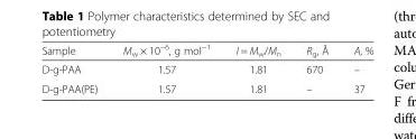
<table><thead><tr><td>Sample</td><td>M<sub>w</sub> × 10<sup>−6</sup>, g mol<sup>−1</sup></td><td>I = M<sub>w</sub>/M<sub>n</sub></td><td>R<sub>g</sub>, Å</td><td>A, %</td></tr></thead><tbody><tr><td>D-g-PAA</td><td>1.57</td><td>1.81</td><td>670</td><td>–</td></tr><tr><td>D-g-PAA(PE)</td><td>1.57</td><td>1.81</td><td>–</td><td>37</td></tr></tbody></table>